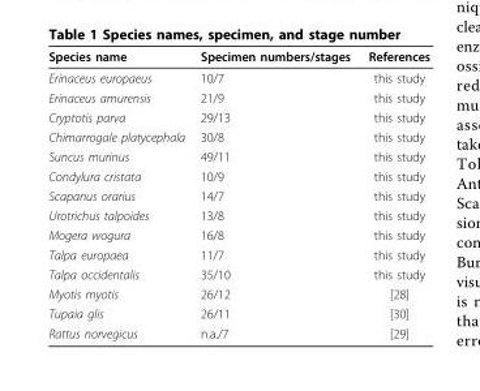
<table><thead><tr><td>Species name</td><td>Specimen numbers/stages</td><td>References</td></tr></thead><tbody><tr><td>Erinaceus europaeus</td><td>10/7</td><td>this study</td></tr><tr><td>Erinaceus amurensis</td><td>21/9</td><td>this study</td></tr><tr><td>Cryptotis parva</td><td>29/13</td><td>this study</td></tr><tr><td>Chimarrogale platycephala</td><td>30/8</td><td>this study</td></tr><tr><td>Suncus murinus</td><td>49/11</td><td>this study</td></tr><tr><td>Condylura cristata</td><td>10/9</td><td>this study</td></tr><tr><td>Scapanus orarius</td><td>14/7</td><td>this study</td></tr><tr><td>Urotrichus talpoides</td><td>13/8</td><td>this study</td></tr><tr><td>Mogera wogura</td><td>16/8</td><td>this study</td></tr><tr><td>Talpa europaea</td><td>11/7</td><td>this study</td></tr><tr><td>Talpa occidentalis</td><td>35/10</td><td>this study</td></tr><tr><td>Myotis myotis</td><td>26/12</td><td>[28]</td></tr><tr><td>Tupaia glis</td><td>26/11</td><td>[30]</td></tr><tr><td>Rattus norvegicus</td><td>n.a./7</td><td>[29]</td></tr></tbody></table>